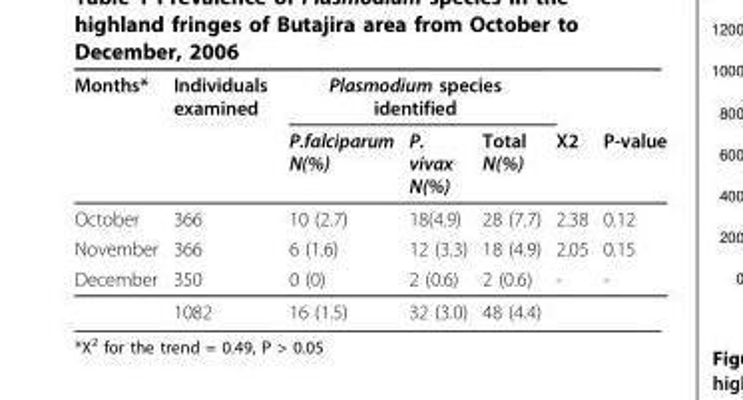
<table><thead><tr><td rowspan="2">Months*</td><td rowspan="2">Individuals examined</td><td colspan="3">Plasmodium species identified</td><td rowspan="2">X2</td><td rowspan="2">P-value</td></tr><tr><td>P.falciparum N(%)</td><td>P. vivax N(%)</td><td>Total N(%)</td></tr></thead><tbody><tr><td>October</td><td>366</td><td>10 (2.7)</td><td>18(4.9)</td><td>28 (7.7)</td><td>2.38</td><td>0.12</td></tr><tr><td>November</td><td>366</td><td>6 (1.6)</td><td>12 (3.3)</td><td>18 (4.9)</td><td>2.05</td><td>0.15</td></tr><tr><td rowspan="2">December</td><td>350</td><td>0 (0)</td><td>2 (0.6)</td><td>2 (0.6)</td><td>-</td><td>-</td></tr><tr><td>1082</td><td>16 (1.5)</td><td>32 (3.0)</td><td>48 (4.4)</td><td></td><td></td></tr></tbody></table>